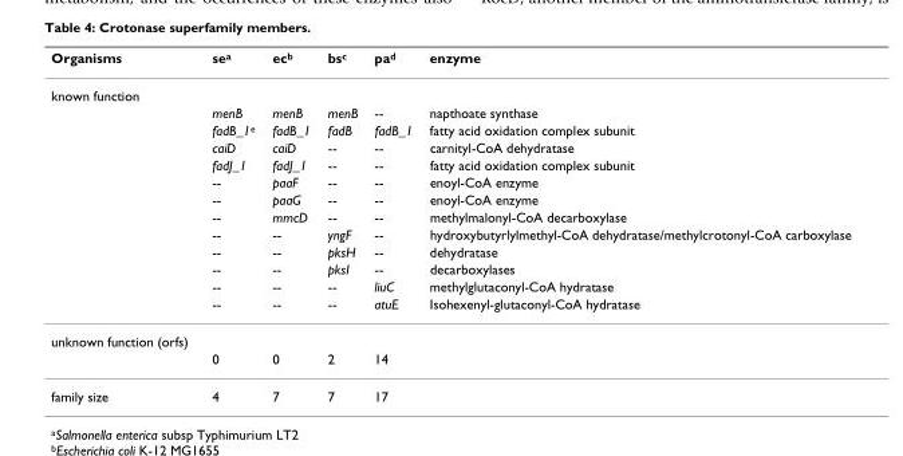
<table><thead><tr><td>Organisms</td><td>se<sup>a</sup></td><td>ec<sup>b</sup></td><td>bs<sup>c</sup></td><td>pa<sup>d</sup></td><td>enzyme</td></tr></thead><tbody><tr><td colspan="6">known function</td></tr><tr><td></td><td>menB</td><td>menB</td><td>menB</td><td>--</td><td>napthoate synthase</td></tr><tr><td></td><td>fadB_1<sup>e</sup></td><td>fadB_1</td><td>fadB</td><td>fadB_1</td><td>fatty acid oxidation complex subunit</td></tr><tr><td></td><td>caiD</td><td>caiD</td><td>--</td><td>--</td><td>carnityl-CoA dehydratase</td></tr><tr><td></td><td>fadJ_1</td><td>fadJ_1</td><td>--</td><td>--</td><td>fatty acid oxidation complex subunit</td></tr><tr><td></td><td>--</td><td>paaF</td><td>--</td><td>--</td><td>enoyl-CoA enzyme</td></tr><tr><td></td><td>--</td><td>paaG</td><td>--</td><td>--</td><td>enoyl-CoA enzyme</td></tr><tr><td></td><td>--</td><td>mmcD</td><td>--</td><td>--</td><td>methylmalonyl-CoA decarboxylase</td></tr><tr><td></td><td>--</td><td>--</td><td>yngF</td><td>--</td><td>hydroxybutyrlylmethyl-CoA dehydratase/methylcrotonyl-CoA carboxylase</td></tr><tr><td></td><td>--</td><td>--</td><td>pksH</td><td>--</td><td>dehydratase</td></tr><tr><td></td><td>--</td><td>--</td><td>pksI</td><td>--</td><td>decarboxylases</td></tr><tr><td></td><td>--</td><td>--</td><td>--</td><td>liuC</td><td>methylglutaconyl-CoA hydratase</td></tr><tr><td></td><td>--</td><td>--</td><td>--</td><td>atuE</td><td>Isohexenyl-glutaconyl-CoA hydratase</td></tr><tr><td colspan="6">unknown function (orfs)</td></tr><tr><td></td><td>0</td><td>0</td><td>2</td><td>14</td><td></td></tr><tr><td>family size</td><td>4</td><td>7</td><td>7</td><td>17</td><td></td></tr></tbody></table>